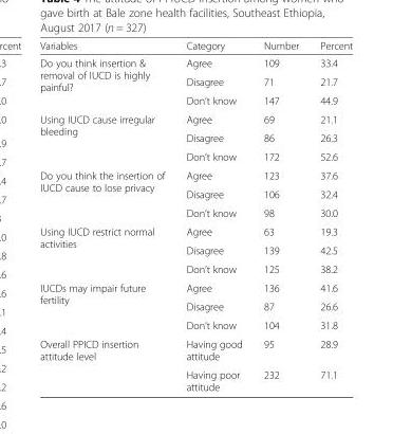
<table><thead><tr><td>Variables</td><td>Category</td><td>Number</td><td>Percent</td></tr></thead><tbody><tr><td rowspan="3">Do you think insertion &amp; removal of IUCD is highly painful?</td><td>Agree</td><td>109</td><td>33.4</td></tr><tr><td>Disagree</td><td>71</td><td>21.7</td></tr><tr><td>Don’t know</td><td>147</td><td>44.9</td></tr><tr><td rowspan="3">Using IUCD cause irregular bleeding</td><td>Agree</td><td>69</td><td>21.1</td></tr><tr><td>Disagree</td><td>86</td><td>26.3</td></tr><tr><td>Don’t know</td><td>172</td><td>52.6</td></tr><tr><td rowspan="3">Do you think the insertion of IUCD cause to lose privacy</td><td>Agree</td><td>123</td><td>37.6</td></tr><tr><td>Disagree</td><td>106</td><td>32.4</td></tr><tr><td>Don’t know</td><td>98</td><td>30.0</td></tr><tr><td rowspan="3">Using IUCD restrict normal activities</td><td>Agree</td><td>63</td><td>19.3</td></tr><tr><td>Disagree</td><td>139</td><td>42.5</td></tr><tr><td>Don’t know</td><td>125</td><td>38.2</td></tr><tr><td rowspan="3">IUCDs may impair future fertility</td><td>Agree</td><td>136</td><td>41.6</td></tr><tr><td>Disagree</td><td>87</td><td>26.6</td></tr><tr><td>Don’t know</td><td>104</td><td>31.8</td></tr><tr><td rowspan="2">Overall PPICD insertion attitude level</td><td>Having good attitude</td><td>95</td><td>28.9</td></tr><tr><td>Having poor attitude</td><td>232</td><td>71.1</td></tr></tbody></table>